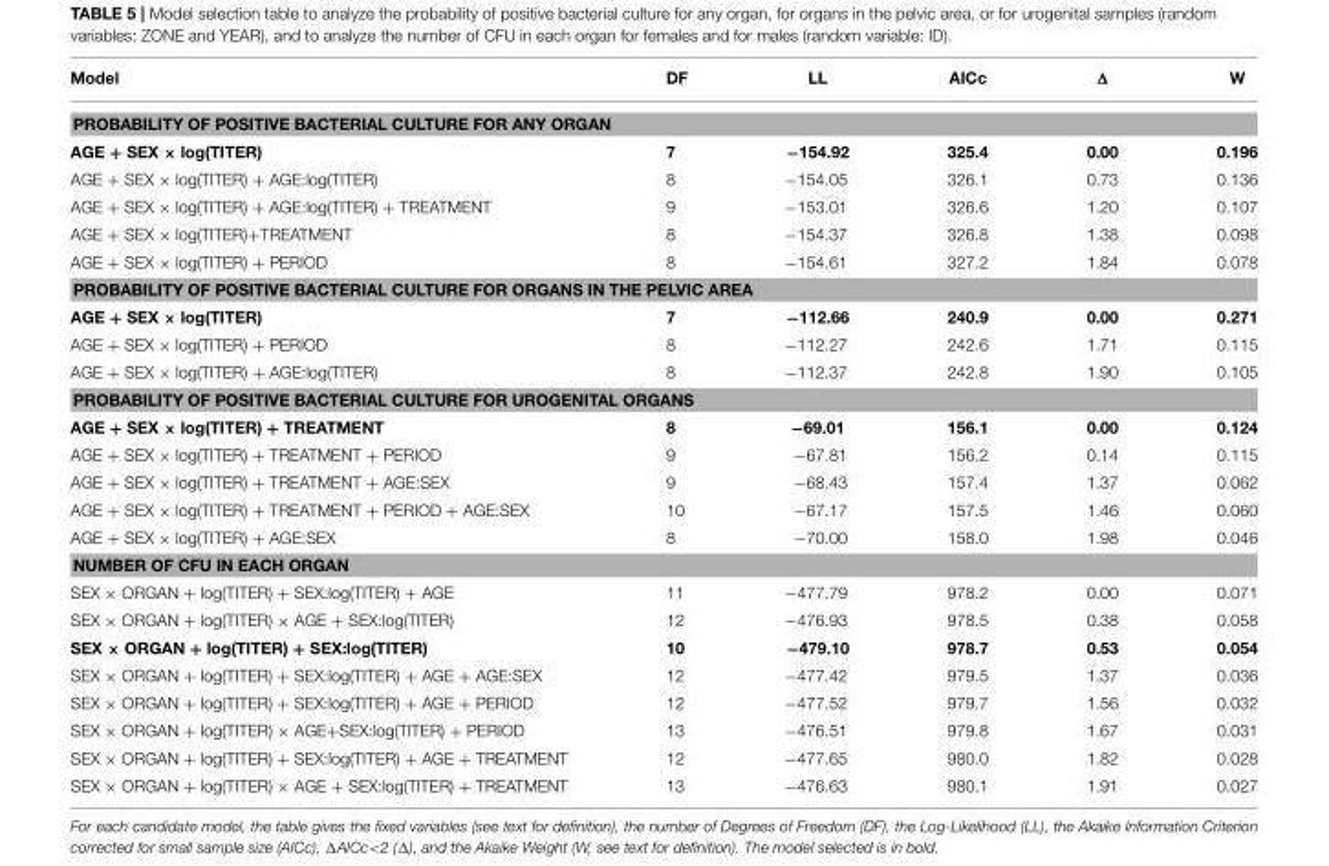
<table><thead><tr><td>Model</td><td>DF</td><td>LL</td><td>AICc</td><td>Δ</td><td>W</td></tr></thead><tbody><tr><td colspan="6">PROBABILITY OF POSITIVE BACTERIAL CULTURE FOR ANY ORGAN</td></tr><tr><td>AGE + SEX × log(TITER)</td><td>7</td><td>−154.92</td><td>325.4</td><td>0.00</td><td>0.196</td></tr><tr><td>AGE + SEX × log(TITER) + AGE:log(TITER)</td><td>8</td><td>−154.05</td><td>326.1</td><td>0.73</td><td>0.136</td></tr><tr><td>AGE + SEX × log(TITER) + AGE:log(TITER) + TREATMENT</td><td>9</td><td>−153.01</td><td>326.6</td><td>1.20</td><td>0.107</td></tr><tr><td>AGE + SEX × log(TITER)+TREATMENT</td><td>8</td><td>−154.37</td><td>326.8</td><td>1.38</td><td>0.098</td></tr><tr><td>AGE + SEX × log(TITER) + PERIOD</td><td>8</td><td>−154.61</td><td>327.2</td><td>1.84</td><td>0.078</td></tr><tr><td colspan="6">PROBABILITY OF POSITIVE BACTERIAL CULTURE FOR ORGANS IN THE PELVIC AREA</td></tr><tr><td>AGE + SEX × log(TITER)</td><td>7</td><td>−112.66</td><td>240.9</td><td>0.00</td><td>0.271</td></tr><tr><td>AGE + SEX × log(TITER) + PERIOD</td><td>8</td><td>−112.27</td><td>242.6</td><td>1.71</td><td>0.115</td></tr><tr><td>AGE + SEX × log(TITER) + AGE:log(TITER)</td><td>8</td><td>−112.37</td><td>242.8</td><td>1.90</td><td>0.105</td></tr><tr><td colspan="6">PROBABILITY OF POSITIVE BACTERIAL CULTURE FOR UROGENITAL ORGANS</td></tr><tr><td>AGE + SEX × log(TITER) + TREATMENT</td><td>8</td><td>−69.01</td><td>156.1</td><td>0.00</td><td>0.124</td></tr><tr><td>AGE + SEX × log(TITER) + TREATMENT + PERIOD</td><td>9</td><td>−67.81</td><td>156.2</td><td>0.14</td><td>0.115</td></tr><tr><td>AGE + SEX × log(TITER) + TREATMENT + AGE:SEX</td><td>9</td><td>−68.43</td><td>157.4</td><td>1.37</td><td>0.062</td></tr><tr><td>AGE + SEX × log(TITER) + TREATMENT + PERIOD + AGE:SEX</td><td>10</td><td>−67.17</td><td>157.5</td><td>1.46</td><td>0.060</td></tr><tr><td>AGE + SEX × log(TITER) + AGE:SEX</td><td>8</td><td>−70.00</td><td>158.0</td><td>1.98</td><td>0.046</td></tr><tr><td colspan="6">NUMBER OF CFU IN EACH ORGAN</td></tr><tr><td>SEX × ORGAN + log(TITER) + SEX:log(TITER) + AGE</td><td>11</td><td>−477.79</td><td>978.2</td><td>0.00</td><td>0.071</td></tr><tr><td>SEX × ORGAN + log(TITER) × AGE + SEX:log(TITER)</td><td>12</td><td>−476.93</td><td>978.5</td><td>0.38</td><td>0.058</td></tr><tr><td>SEX × ORGAN + log(TITER) + SEX:log(TITER)</td><td>10</td><td>−479.10</td><td>978.7</td><td>0.53</td><td>0.054</td></tr><tr><td>SEX × ORGAN + log(TITER) + SEX:log(TITER) + AGE + AGE:SEX</td><td>12</td><td>−477.42</td><td>979.5</td><td>1.37</td><td>0.036</td></tr><tr><td>SEX × ORGAN + log(TITER) + SEX:log(TITER) + AGE + PERIOD</td><td>12</td><td>−477.52</td><td>979.7</td><td>1.56</td><td>0.032</td></tr><tr><td>SEX × ORGAN + log(TITER) × AGE+SEX:log(TITER) + PERIOD</td><td>13</td><td>−476.51</td><td>979.8</td><td>1.67</td><td>0.031</td></tr><tr><td>SEX × ORGAN + log(TITER) + SEX:log(TITER) + AGE + TREATMENT</td><td>12</td><td>−477.65</td><td>980.0</td><td>1.82</td><td>0.028</td></tr><tr><td>SEX × ORGAN + log(TITER) × AGE + SEX:log(TITER) + TREATMENT</td><td>13</td><td>−476.63</td><td>980.1</td><td>1.91</td><td>0.027</td></tr></tbody></table>